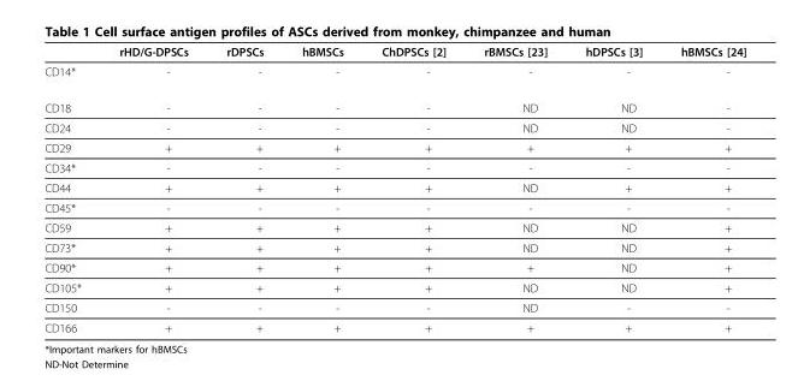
<table><thead><tr><td></td><td>rHD/G-DPSCs</td><td>rDPSCs</td><td>hBMSCs</td><td>ChDPSCs [2]</td><td>rBMSCs [23]</td><td>hDPSCs [3]</td><td>hBMSCs [24]</td></tr></thead><tbody><tr><td>CD14*</td><td>-</td><td>-</td><td>-</td><td>-</td><td>-</td><td>-</td><td>-</td></tr><tr><td>CD18</td><td>-</td><td>-</td><td>-</td><td>-</td><td>ND</td><td>ND</td><td>-</td></tr><tr><td>CD24</td><td>-</td><td>-</td><td>-</td><td>-</td><td>ND</td><td>ND</td><td>-</td></tr><tr><td>CD29</td><td>+</td><td>+</td><td>+</td><td>+</td><td>+</td><td>+</td><td>+</td></tr><tr><td>CD34*</td><td>-</td><td>-</td><td>-</td><td>-</td><td>-</td><td>-</td><td>-</td></tr><tr><td>CD44</td><td>+</td><td>+</td><td>+</td><td>+</td><td>ND</td><td>+</td><td>+</td></tr><tr><td>CD45*</td><td>-</td><td>-</td><td>-</td><td>-</td><td>-</td><td>-</td><td>-</td></tr><tr><td>CD59</td><td>+</td><td>+</td><td>+</td><td>+</td><td>ND</td><td>ND</td><td>+</td></tr><tr><td>CD73*</td><td>+</td><td>+</td><td>+</td><td>+</td><td>ND</td><td>ND</td><td>+</td></tr><tr><td>CD90*</td><td>+</td><td>+</td><td>+</td><td>+</td><td>+</td><td>ND</td><td>+</td></tr><tr><td>CD105*</td><td>+</td><td>+</td><td>+</td><td>+</td><td>ND</td><td>ND</td><td>+</td></tr><tr><td>CD150</td><td>-</td><td>-</td><td>-</td><td>-</td><td>ND</td><td>-</td><td>-</td></tr><tr><td>CD166</td><td>+</td><td>+</td><td>+</td><td>+</td><td>+</td><td>+</td><td>+</td></tr></tbody></table>